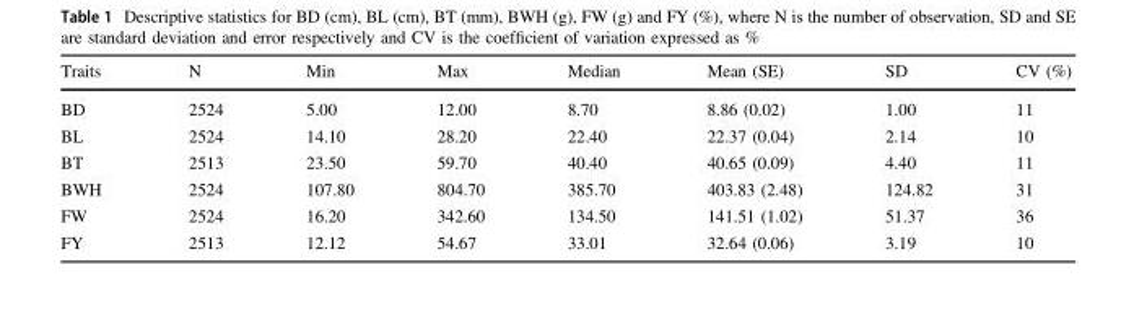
<table><thead><tr><td>Traits</td><td>N</td><td>Min</td><td>Max</td><td>Median</td><td>Mean (SE)</td><td>SD</td><td>CV (%)</td></tr></thead><tbody><tr><td>BD</td><td>2524</td><td>5.00</td><td>12.00</td><td>8.70</td><td>8.86 (0.02)</td><td>1.00</td><td>11</td></tr><tr><td>BL</td><td>2524</td><td>14.10</td><td>28.20</td><td>22.40</td><td>22.37 (0.04)</td><td>2.14</td><td>10</td></tr><tr><td>BT</td><td>2513</td><td>23.50</td><td>59.70</td><td>40.40</td><td>40.65 (0.09)</td><td>4.40</td><td>11</td></tr><tr><td>BWH</td><td>2524</td><td>107.80</td><td>804.70</td><td>385.70</td><td>403.83 (2.48)</td><td>124.82</td><td>31</td></tr><tr><td>FW</td><td>2524</td><td>16.20</td><td>342.60</td><td>134.50</td><td>141.51 (1.02)</td><td>51.37</td><td>36</td></tr><tr><td>FY</td><td>2513</td><td>12.12</td><td>54.67</td><td>33.01</td><td>32.64 (0.06)</td><td>3.19</td><td>10</td></tr></tbody></table>